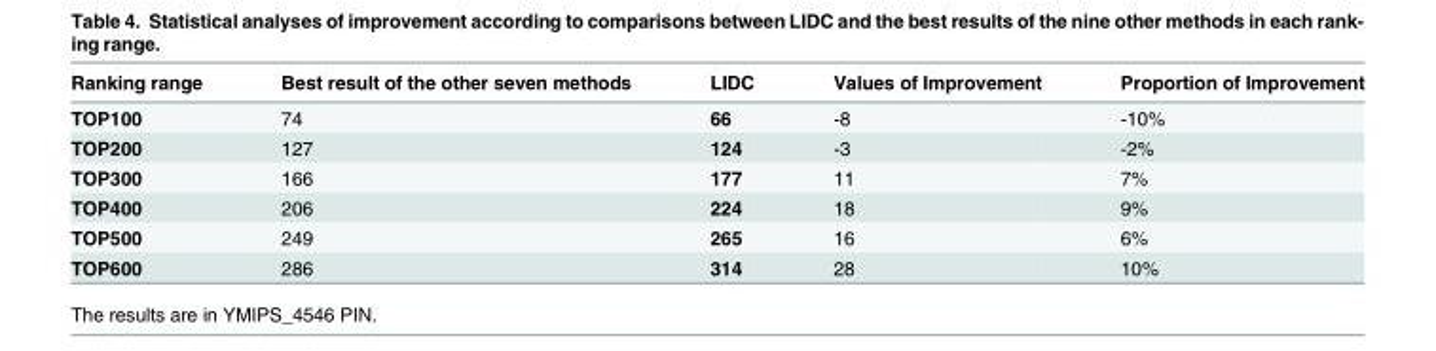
<table><thead><tr><td>Ranking range</td><td>Best result of the other seven methods</td><td>LIDC</td><td>Values of Improvement</td><td>Proportion of Improvement</td></tr></thead><tbody><tr><td>TOP100</td><td>74</td><td>66</td><td>-8</td><td>-10%</td></tr><tr><td>TOP200</td><td>127</td><td>124</td><td>-3</td><td>-2%</td></tr><tr><td>TOP300</td><td>166</td><td>177</td><td>11</td><td>7%</td></tr><tr><td>TOP400</td><td>206</td><td>224</td><td>18</td><td>9%</td></tr><tr><td>TOP500</td><td>249</td><td>265</td><td>16</td><td>6%</td></tr><tr><td>TOP600</td><td>286</td><td>314</td><td>28</td><td>10%</td></tr></tbody></table>